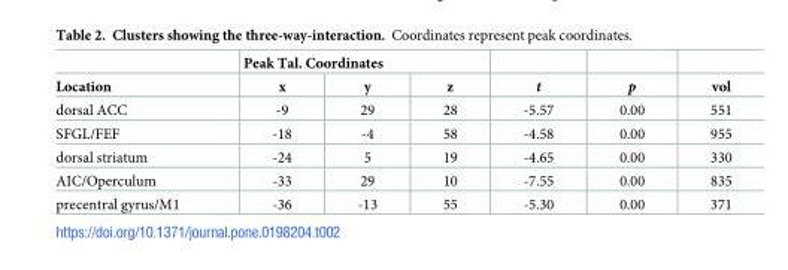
<table><thead><tr><td rowspan="2">Location</td><td colspan="3">Peak Tal. Coordinates</td><td rowspan="2">t</td><td rowspan="2">p</td><td rowspan="2">vol</td></tr><tr><td>x</td><td>y</td><td>z</td></tr></thead><tbody><tr><td>dorsal ACC</td><td>-9</td><td>29</td><td>28</td><td>-5.57</td><td>0.00</td><td>551</td></tr><tr><td>SFGL/FEF</td><td>-18</td><td>-4</td><td>58</td><td>-4.58</td><td>0.00</td><td>955</td></tr><tr><td>dorsal striatum</td><td>-24</td><td>5</td><td>19</td><td>-4.65</td><td>0.00</td><td>330</td></tr><tr><td>AIC/Operculum</td><td>-33</td><td>29</td><td>10</td><td>-7.55</td><td>0.00</td><td>835</td></tr><tr><td>precentral gyrus/M1</td><td>-36</td><td>-13</td><td>55</td><td>-5.30</td><td>0.00</td><td>371</td></tr></tbody></table>